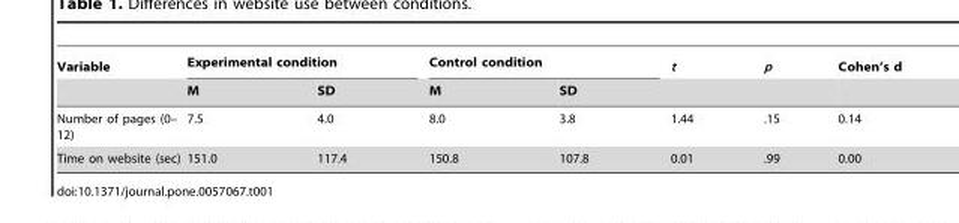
<table><thead><tr><td rowspan="2">Variable</td><td colspan="2">Experimental condition</td><td colspan="2">Control condition</td><td rowspan="2">t</td><td rowspan="2">p</td><td rowspan="2">Cohen’s d</td></tr><tr><td>M</td><td>SD</td><td>M</td><td>SD</td></tr></thead><tbody><tr><td>Number of pages (0– 12)</td><td>7.5</td><td>4.0</td><td>8.0</td><td>3.8</td><td>1.44</td><td>.15</td><td>0.14</td></tr><tr><td>Time on website (sec)</td><td>151.0</td><td>117.4</td><td>150.8</td><td>107.8</td><td>0.01</td><td>.99</td><td>0.00</td></tr></tbody></table>